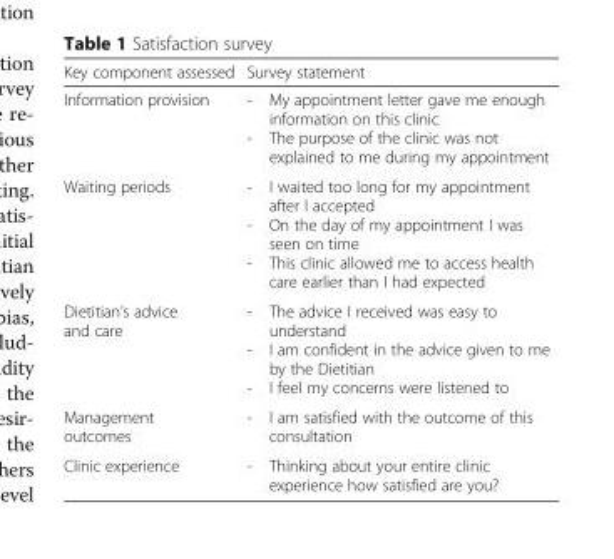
<table><thead><tr><td>Key component assessed</td><td>Survey statement</td></tr></thead><tbody><tr><td>Information provision</td><td>- My appointment letter gave me enough information on this clinic - The purpose of the clinic was not explained to me during my appointment</td></tr><tr><td>Waiting periods</td><td>- I waited too long for my appointment after I accepted - On the day of my appointment I was seen on time - This clinic allowed me to access health care earlier than I had expected</td></tr><tr><td>Dietitian’s advice and care</td><td>- The advice I received was easy to understand - I am confident in the advice given to me by the Dietitian - I feel my concerns were listened to</td></tr><tr><td>Management outcomes</td><td>- I am satisfied with the outcome of this consultation</td></tr><tr><td>Clinic experience</td><td>- Thinking about your entire clinic experience how satisfied are you?</td></tr></tbody></table>